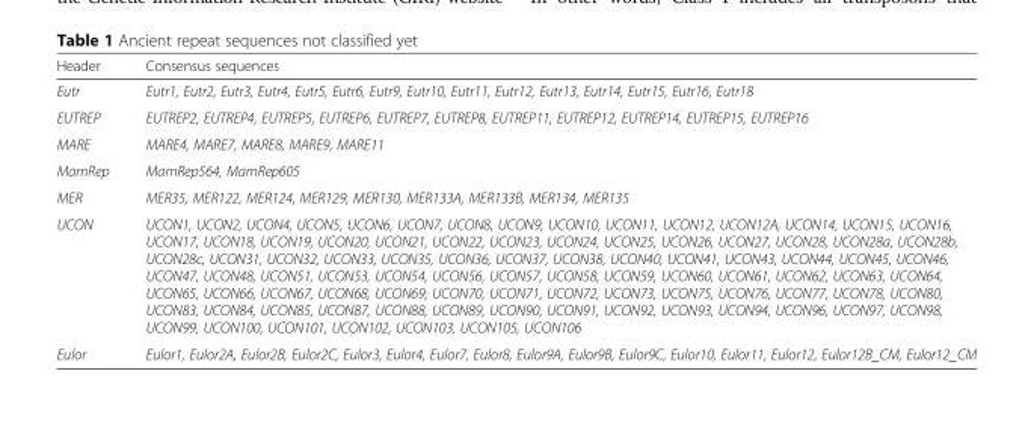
<table><thead><tr><td>Header</td><td>Consensus sequences</td></tr></thead><tbody><tr><td>Eutr</td><td>Eutr1, Eutr2, Eutr3, Eutr4, Eutr5, Eutr6, Eutr9, Eutr10, Eutr11, Eutr12, Eutr13, Eutr14, Eutr15, Eutr16, Eutr18</td></tr><tr><td>EUTREP</td><td>EUTREP2, EUTREP4, EUTREP5, EUTREP6, EUTREP7, EUTREP8, EUTREP11, EUTREP12, EUTREP14, EUTREP15, EUTREP16</td></tr><tr><td>MARE</td><td>MARE4, MARE7, MARE8, MARE9, MARE11</td></tr><tr><td>MamRep</td><td>MamRep564, MamRep605</td></tr><tr><td>MER</td><td>MER35, MER122, MER124, MER129, MER130, MER133A, MER133B, MER134, MER135</td></tr><tr><td>UCON</td><td>UCON1, UCON2, UCON4, UCON5, UCON6, UCON7, UCON8, UCON9, UCON10, UCON11, UCON12, UCON12A, UCON14, UCON15, UCON16, UCON17, UCON18, UCON19, UCON20, UCON21, UCON22, UCON23, UCON24, UCON25, UCON26, UCON27, UCON28, UCON28a, UCON28b, UCON28c, UCON31, UCON32, UCON33, UCON35, UCON36, UCON37, UCON38, UCON40, UCON41, UCON43, UCON44, UCON45, UCON46, UCON47, UCON48, UCON51, UCON53, UCON54, UCON56, UCON57, UCON58, UCON59, UCON60, UCON61, UCON62, UCON63, UCON64, UCON65, UCON66, UCON67, UCON68, UCON69, UCON70, UCON71, UCON72, UCON73, UCON75, UCON76, UCON77, UCON78, UCON80, UCON83, UCON84, UCON85, UCON87, UCON88, UCON89, UCON90, UCON91, UCON92, UCON93, UCON94, UCON96, UCON97, UCON98, UCON99, UCON100, UCON101, UCON102, UCON103, UCON105, UCON106</td></tr><tr><td>Eulor</td><td>Eulor1, Eulor2A, Eulor2B, Eulor2C, Eulor3, Eulor4, Eulor7, Eulor8, Eulor9A, Eulor9B, Eulor9C, Eulor10, Eulor11, Eulor12, Eulor12B_CM, Eulor12_CM</td></tr></tbody></table>